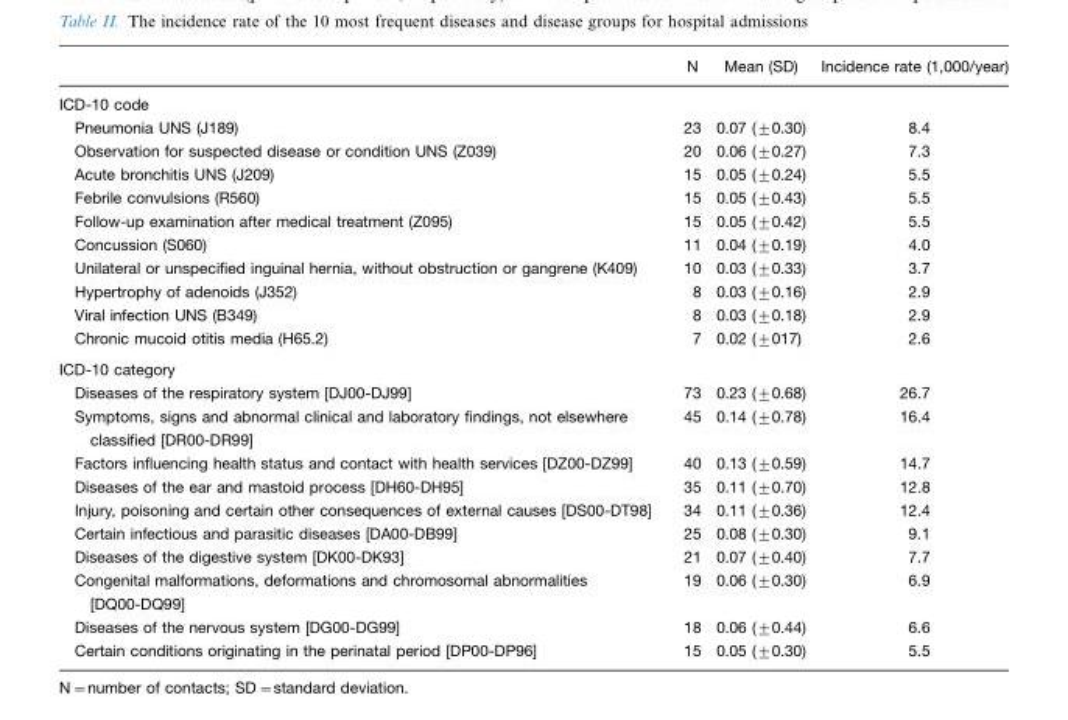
<table><thead><tr><td></td><td>N</td><td>Mean (SD)</td><td>Incidence rate (1,000/year)</td></tr></thead><tbody><tr><td colspan="4">ICD-10 code</td></tr><tr><td>Pneumonia UNS (J189)</td><td>23</td><td>0.07 (±0.30)</td><td>8.4</td></tr><tr><td>Observation for suspected disease or condition UNS (Z039)</td><td>20</td><td>0.06 (±0.27)</td><td>7.3</td></tr><tr><td>Acute bronchitis UNS (J209)</td><td>15</td><td>0.05 (±0.24)</td><td>5.5</td></tr><tr><td>Febrile convulsions (R560)</td><td>15</td><td>0.05 (±0.43)</td><td>5.5</td></tr><tr><td>Follow-up examination after medical treatment (Z095)</td><td>15</td><td>0.05 (±0.42)</td><td>5.5</td></tr><tr><td>Concussion (S060)</td><td>11</td><td>0.04 (±0.19)</td><td>4.0</td></tr><tr><td>Unilateral or unspecified inguinal hernia, without obstruction or gangrene (K409)</td><td>10</td><td>0.03 (±0.33)</td><td>3.7</td></tr><tr><td>Hypertrophy of adenoids (J352)</td><td>8</td><td>0.03 (±0.16)</td><td>2.9</td></tr><tr><td>Viral infection UNS (B349)</td><td>8</td><td>0.03 (±0.18)</td><td>2.9</td></tr><tr><td>Chronic mucoid otitis media (H65.2)</td><td>7</td><td>0.02 (±017)</td><td>2.6</td></tr><tr><td colspan="4">ICD-10 category</td></tr><tr><td>Diseases of the respiratory system [DJ00-DJ99]</td><td>73</td><td>0.23 (±0.68)</td><td>26.7</td></tr><tr><td>Symptoms, signs and abnormal clinical and laboratory findings, not elsewhere classified [DR00-DR99]</td><td>45</td><td>0.14 (±0.78)</td><td>16.4</td></tr><tr><td>Factors influencing health status and contact with health services [DZ00-DZ99]</td><td>40</td><td>0.13 (±0.59)</td><td>14.7</td></tr><tr><td>Diseases of the ear and mastoid process [DH60-DH95]</td><td>35</td><td>0.11 (±0.70)</td><td>12.8</td></tr><tr><td>Injury, poisoning and certain other consequences of external causes [DS00-DT98]</td><td>34</td><td>0.11 (±0.36)</td><td>12.4</td></tr><tr><td>Certain infectious and parasitic diseases [DA00-DB99]</td><td>25</td><td>0.08 (±0.30)</td><td>9.1</td></tr><tr><td>Diseases of the digestive system [DK00-DK93]</td><td>21</td><td>0.07 (±0.40)</td><td>7.7</td></tr><tr><td>Congenital malformations, deformations and chromosomal abnormalities [DQ00-DQ99]</td><td>19</td><td>0.06 (±0.30)</td><td>6.9</td></tr><tr><td>Diseases of the nervous system [DG00-DG99]</td><td>18</td><td>0.06 (±0.44)</td><td>6.6</td></tr><tr><td>Certain conditions originating in the perinatal period [DP00-DP96]</td><td>15</td><td>0.05 (±0.30)</td><td>5.5</td></tr></tbody></table>